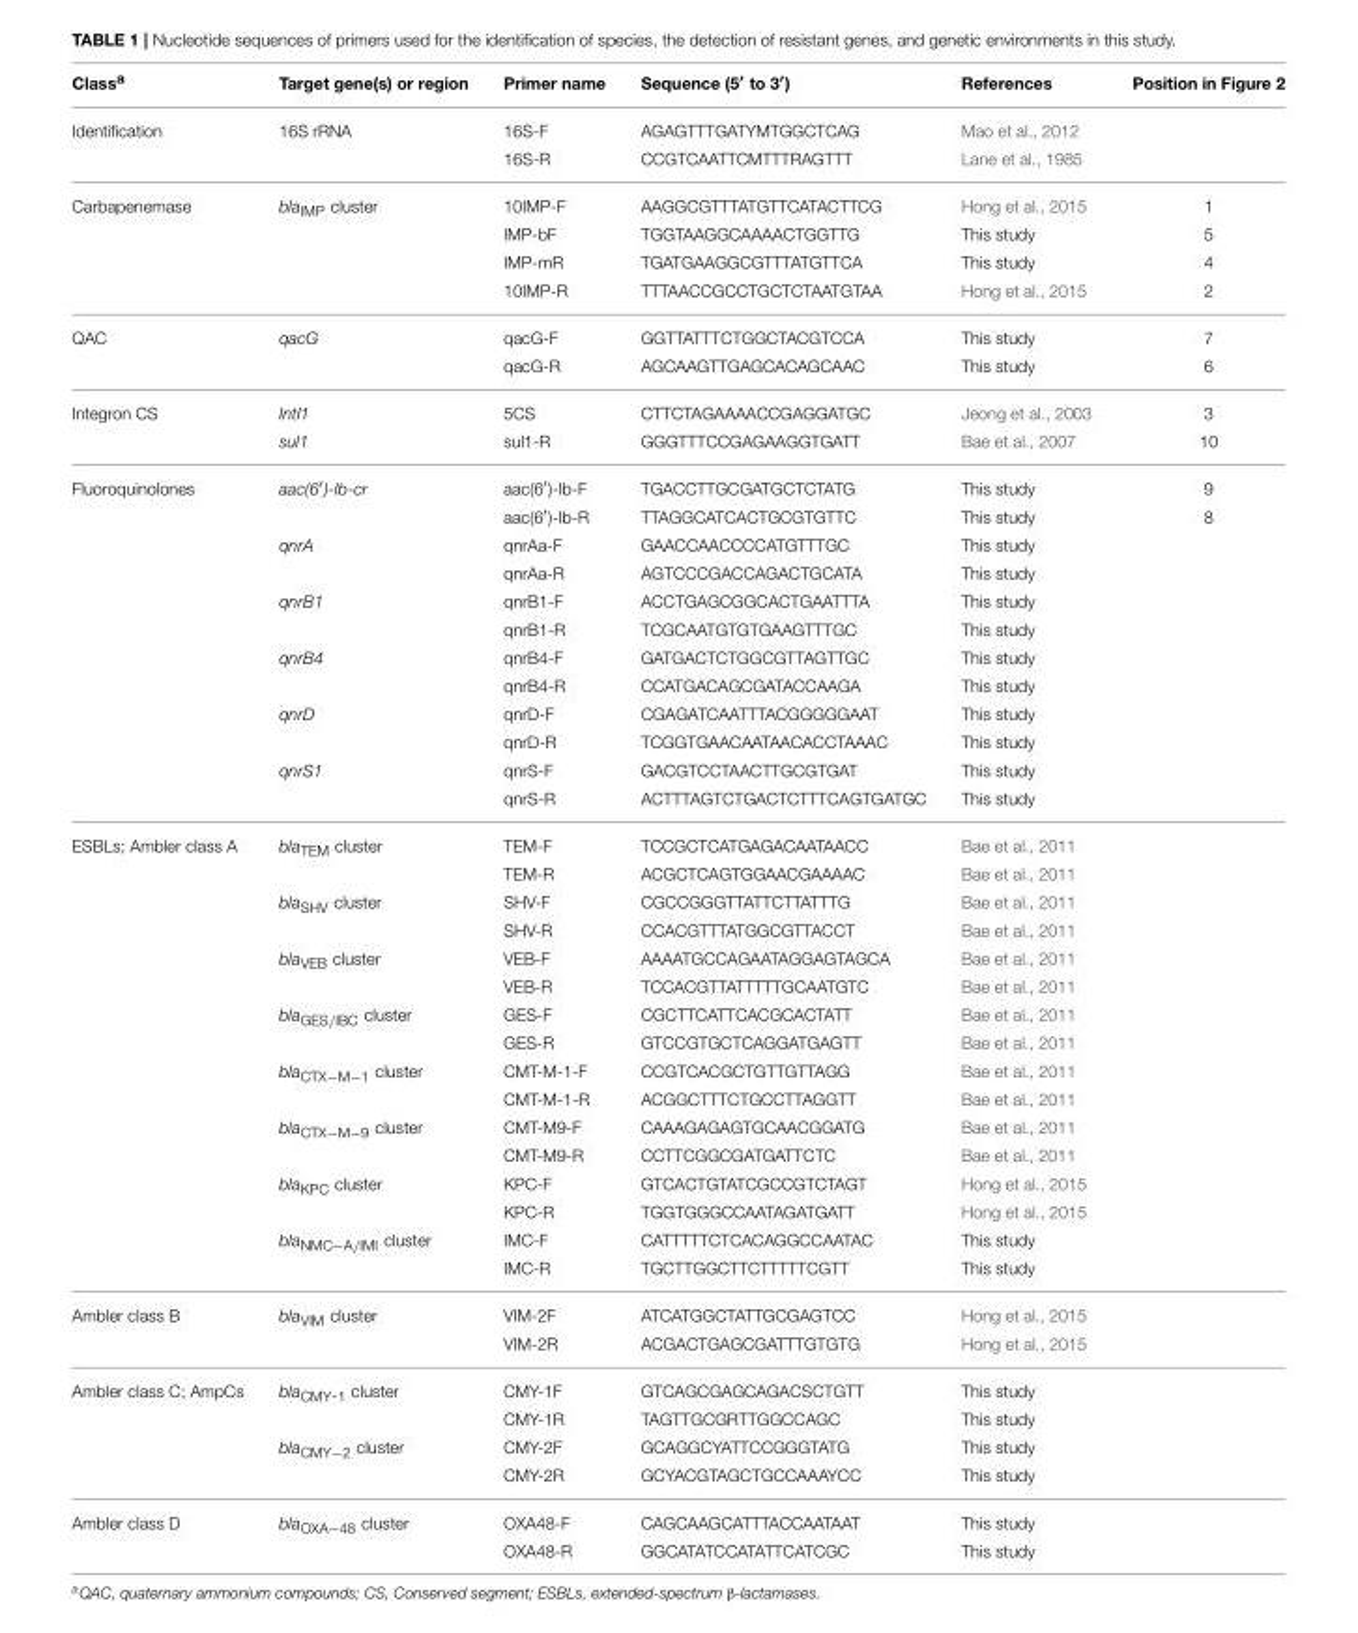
<table><thead><tr><td>Class<sup>a</sup></td><td>Target gene(s) or region</td><td>Primer name</td><td>Sequence (5′ to 3′)</td><td>References</td><td>Position in Figure 2</td></tr></thead><tbody><tr><td rowspan="2">Identification</td><td>16S rRNA</td><td>16S-F</td><td>AGAGTTTGATYMTGGCTCAG</td><td>Mao et al., 2012</td><td></td></tr><tr><td></td><td>16S-R</td><td>CCGTCAATTCMTTTRAGTTT</td><td>Lane et al., 1985</td><td></td></tr><tr><td rowspan="4">Carbapenemase</td><td>bla<sub>IMP</sub> cluster</td><td>10IMP-F</td><td>AAGGCGTTTATGTTCATACTTCG</td><td>Hong et al., 2015</td><td>1</td></tr><tr><td></td><td>IMP-bF</td><td>TGGTAAGGCAAAACTGGTTG</td><td>This study</td><td>5</td></tr><tr><td></td><td>IMP-mR</td><td>TGATGAAGGCGTTTATGTTCA</td><td>This study</td><td>4</td></tr><tr><td></td><td>10IMP-R</td><td>TTTAACCGCCTGCTCTAATGTAA</td><td>Hong et al., 2015</td><td>2</td></tr><tr><td rowspan="2">QAC</td><td>qacG</td><td>qacG-F</td><td>GGTTATTTCTGGCTACGTCCA</td><td>This study</td><td>7</td></tr><tr><td></td><td>qacG-R</td><td>AGCAAGTTGAGCACAGCAAC</td><td>This study</td><td>6</td></tr><tr><td rowspan="2">Integron CS</td><td>IntI1</td><td>5CS</td><td>CTTCTAGAAAACCGAGGATGC</td><td>Jeong et al., 2003</td><td>3</td></tr><tr><td>sul1</td><td>sul1-R</td><td>GGGTTTCCGAGAAGGTGATT</td><td>Bae et al., 2007</td><td>10</td></tr><tr><td rowspan="12">Fluoroquinolones</td><td>aac(6′)-Ib-cr</td><td>aac(6′)-Ib-F</td><td>TGACCTTGCGATGCTCTATG</td><td>This study</td><td>9</td></tr><tr><td></td><td>aac(6′)-Ib-R</td><td>TTAGGCATCACTGCGTGTTC</td><td>This study</td><td>8</td></tr><tr><td>qnrA</td><td>qnrAa-F</td><td>GAACCAACCCCATGTTTGC</td><td>This study</td><td></td></tr><tr><td></td><td>qnrAa-R</td><td>AGTCCCGACCAGACTGCATA</td><td>This study</td><td></td></tr><tr><td>qnrB1</td><td>qnrB1-F</td><td>ACCTGAGCGGCACTGAATTTA</td><td>This study</td><td></td></tr><tr><td></td><td>qnrB1-R</td><td>TCGCAATGTGTGAAGTTTGC</td><td>This study</td><td></td></tr><tr><td>qnrB4</td><td>qnrB4-F</td><td>GATGACTCTGGCGTTAGTTGC</td><td>This study</td><td></td></tr><tr><td></td><td>qnrB4-R</td><td>CCATGACAGCGATACCAAGA</td><td>This study</td><td></td></tr><tr><td>qnrD</td><td>qnrD-F</td><td>CGAGATCAATTTACGGGGGAAT</td><td>This study</td><td></td></tr><tr><td></td><td>qnrD-R</td><td>TCGGTGAACAATAACACCTAAAC</td><td>This study</td><td></td></tr><tr><td>qnrS1</td><td>qnrS-F</td><td>GACGTCCTAACTTGCGTGAT</td><td>This study</td><td></td></tr><tr><td></td><td>qnrS-R</td><td>ACTTTAGTCTGACTCTTTCAGTGATGC</td><td>This study</td><td></td></tr><tr><td rowspan="16">ESBLs; Ambler class A</td><td>bla<sub>TEM</sub> cluster</td><td>TEM-F</td><td>TCCGCTCATGAGACAATAACC</td><td>Bae et al., 2011</td><td></td></tr><tr><td></td><td>TEM-R</td><td>ACGCTCAGTGGAACGAAAAC</td><td>Bae et al., 2011</td><td></td></tr><tr><td>bla<sub>SHV</sub> cluster</td><td>SHV-F</td><td>CGCCGGGTTATTCTTATTTG</td><td>Bae et al., 2011</td><td></td></tr><tr><td></td><td>SHV-R</td><td>CCACGTTTATGGCGTTACCT</td><td>Bae et al., 2011</td><td></td></tr><tr><td>bla<sub>VEB</sub> cluster</td><td>VEB-F</td><td>AAAATGCCAGAATAGGAGTAGCA</td><td>Bae et al., 2011</td><td></td></tr><tr><td></td><td>VEB-R</td><td>TCCACGTTATTTTTGCAATGTC</td><td>Bae et al., 2011</td><td></td></tr><tr><td>bla<sub>GES/IBC</sub> cluster</td><td>GES-F</td><td>CGCTTCATTCACGCACTATT</td><td>Bae et al., 2011</td><td></td></tr><tr><td></td><td>GES-R</td><td>GTCCGTGCTCAGGATGAGTT</td><td>Bae et al., 2011</td><td></td></tr><tr><td>bla<sub>CTX−M−1</sub> cluster</td><td>CMT-M-1-F</td><td>CCGTCACGCTGTTGTTAGG</td><td>Bae et al., 2011</td><td></td></tr><tr><td></td><td>CMT-M-1-R</td><td>ACGGCTTTCTGCCTTAGGTT</td><td>Bae et al., 2011</td><td></td></tr><tr><td>bla<sub>CTX−M−9</sub> cluster</td><td>CMT-M9-F</td><td>CAAAGAGAGTGCAACGGATG</td><td>Bae et al., 2011</td><td></td></tr><tr><td></td><td>CMT-M9-R</td><td>CCTTCGGCGATGATTCTC</td><td>Bae et al., 2011</td><td></td></tr><tr><td>bla<sub>KPC</sub> cluster</td><td>KPC-F</td><td>GTCACTGTATCGCCGTCTAGT</td><td>Hong et al., 2015</td><td></td></tr><tr><td></td><td>KPC-R</td><td>TGGTGGGCCAATAGATGATT</td><td>Hong et al., 2015</td><td></td></tr><tr><td>bla<sub>NMC−A/IMI</sub> cluster</td><td>IMC-F</td><td>CATTTTTCTCACAGGCCAATAC</td><td>This study</td><td></td></tr><tr><td></td><td>IMC-R</td><td>TGCTTGGCTTCTTTTTCGTT</td><td>This study</td><td></td></tr><tr><td rowspan="2">Ambler class B</td><td>bla<sub>VIM</sub> cluster</td><td>VIM-2F</td><td>ATCATGGCTATTGCGAGTCC</td><td>Hong et al., 2015</td><td></td></tr><tr><td></td><td>VIM-2R</td><td>ACGACTGAGCGATTTGTGTG</td><td>Hong et al., 2015</td><td></td></tr><tr><td rowspan="4">Ambler class C; AmpCs</td><td>bla<sub>CMY-1</sub> cluster</td><td>CMY-1F</td><td>GTCAGCGAGCAGACSCTGTT</td><td>This study</td><td></td></tr><tr><td></td><td>CMY-1R</td><td>TAGTTGCGRTTGGCCAGC</td><td>This study</td><td></td></tr><tr><td>bla<sub>CMY−2</sub> cluster</td><td>CMY-2F</td><td>GCAGGCYATTCCGGGTATG</td><td>This study</td><td></td></tr><tr><td></td><td>CMY-2R</td><td>GCYACGTAGCTGCCAAAYCC</td><td>This study</td><td></td></tr><tr><td rowspan="2">Ambler class D</td><td>bla<sub>OXA−48</sub> cluster</td><td>OXA48-F</td><td>CAGCAAGCATTTACCAATAAT</td><td>This study</td><td></td></tr><tr><td></td><td>OXA48-R</td><td>GGCATATCCATATTCATCGC</td><td>This study</td><td></td></tr></tbody></table>